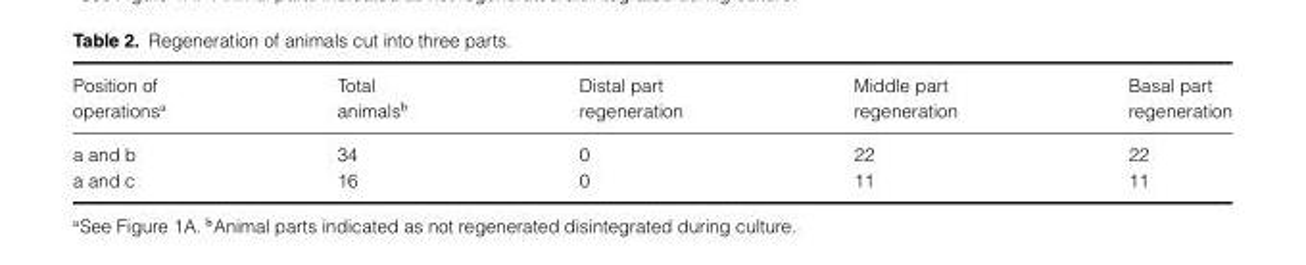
<table><thead><tr><td rowspan="2">Position of operationsa</td><td rowspan="2">Total animalsb</td><td rowspan="2">Distal part regeneration</td><td rowspan="2">Middle part regeneration</td><td rowspan="2">Basal part regeneration</td></tr><tr></tr></thead><tbody><tr><td>a and b</td><td>34</td><td>0</td><td>22</td><td>22</td></tr><tr><td>a and c</td><td>16</td><td>0</td><td>11</td><td>11</td></tr></tbody></table>